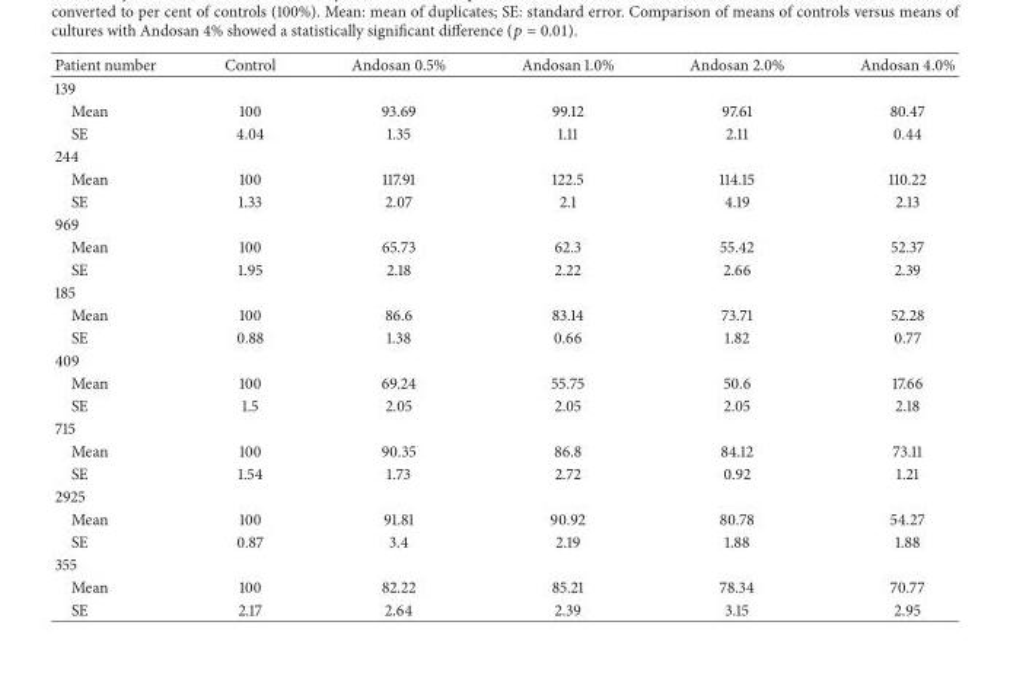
<table><thead><tr><td>Patient number</td><td>Control</td><td>Andosan 0.5%</td><td>Andosan 1.0%</td><td>Andosan 2.0%</td><td>Andosan 4.0%</td></tr></thead><tbody><tr><td colspan="6">139</td></tr><tr><td>Mean</td><td>100</td><td>93.69</td><td>99.12</td><td>97.61</td><td>80.47</td></tr><tr><td>SE</td><td>4.04</td><td>1.35</td><td>1.11</td><td>2.11</td><td>0.44</td></tr><tr><td colspan="6">244</td></tr><tr><td>Mean</td><td>100</td><td>117.91</td><td>122.5</td><td>114.15</td><td>110.22</td></tr><tr><td>SE</td><td>1.33</td><td>2.07</td><td>2.1</td><td>4.19</td><td>2.13</td></tr><tr><td colspan="6">969</td></tr><tr><td>Mean</td><td>100</td><td>65.73</td><td>62.3</td><td>55.42</td><td>52.37</td></tr><tr><td>SE</td><td>1.95</td><td>2.18</td><td>2.22</td><td>2.66</td><td>2.39</td></tr><tr><td colspan="6">185</td></tr><tr><td>Mean</td><td>100</td><td>86.6</td><td>83.14</td><td>73.71</td><td>52.28</td></tr><tr><td>SE</td><td>0.88</td><td>1.38</td><td>0.66</td><td>1.82</td><td>0.77</td></tr><tr><td colspan="6">409</td></tr><tr><td>Mean</td><td>100</td><td>69.24</td><td>55.75</td><td>50.6</td><td>17.66</td></tr><tr><td>SE</td><td>1.5</td><td>2.05</td><td>2.05</td><td>2.05</td><td>2.18</td></tr><tr><td colspan="6">715</td></tr><tr><td>Mean</td><td>100</td><td>90.35</td><td>86.8</td><td>84.12</td><td>73.11</td></tr><tr><td>SE</td><td>1.54</td><td>1.73</td><td>2.72</td><td>0.92</td><td>1.21</td></tr><tr><td colspan="6">2925</td></tr><tr><td>Mean</td><td>100</td><td>91.81</td><td>90.92</td><td>80.78</td><td>54.27</td></tr><tr><td>SE</td><td>0.87</td><td>3.4</td><td>2.19</td><td>1.88</td><td>1.88</td></tr><tr><td colspan="6">355</td></tr><tr><td>Mean</td><td>100</td><td>82.22</td><td>85.21</td><td>78.34</td><td>70.77</td></tr><tr><td>SE</td><td>2.17</td><td>2.64</td><td>2.39</td><td>3.15</td><td>2.95</td></tr></tbody></table>